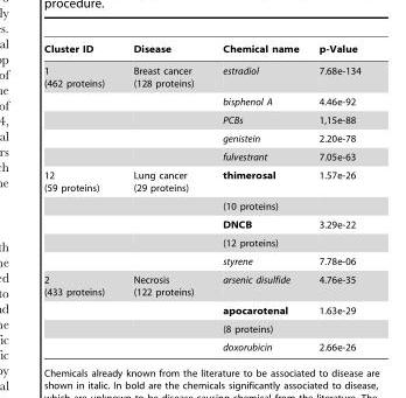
<table><thead><tr><td>Cluster ID</td><td>Disease</td><td>Chemical name</td><td>p-Value</td></tr></thead><tbody><tr><td rowspan="5">1 (462 proteins)</td><td>Breast cancer (128 proteins)</td><td>estradiol</td><td>7.68e-134</td></tr><tr><td></td><td>bisphenol A</td><td>4.46e-92</td></tr><tr><td></td><td>PCBs</td><td>1,15e-88</td></tr><tr><td></td><td>genistein</td><td>2.20e-78</td></tr><tr><td></td><td>fulvestrant</td><td>7.05e-63</td></tr><tr><td rowspan="5">12 (59 proteins)</td><td>Lung cancer (29 proteins)</td><td>thimerosal</td><td>1.57e-26</td></tr><tr><td></td><td>(10 proteins)</td><td></td></tr><tr><td></td><td>DNCB</td><td>3.29e-22</td></tr><tr><td></td><td>(12 proteins)</td><td></td></tr><tr><td></td><td>styrene</td><td>7.78e-06</td></tr><tr><td rowspan="4">2 (433 proteins)</td><td>Necrosis (122 proteins)</td><td>arsenic disulfide</td><td>4.76e-35</td></tr><tr><td></td><td>apocarotenal</td><td>1.63e-29</td></tr><tr><td></td><td>(8 proteins)</td><td></td></tr><tr><td></td><td>doxorubicin</td><td>2.66e-26</td></tr></tbody></table>